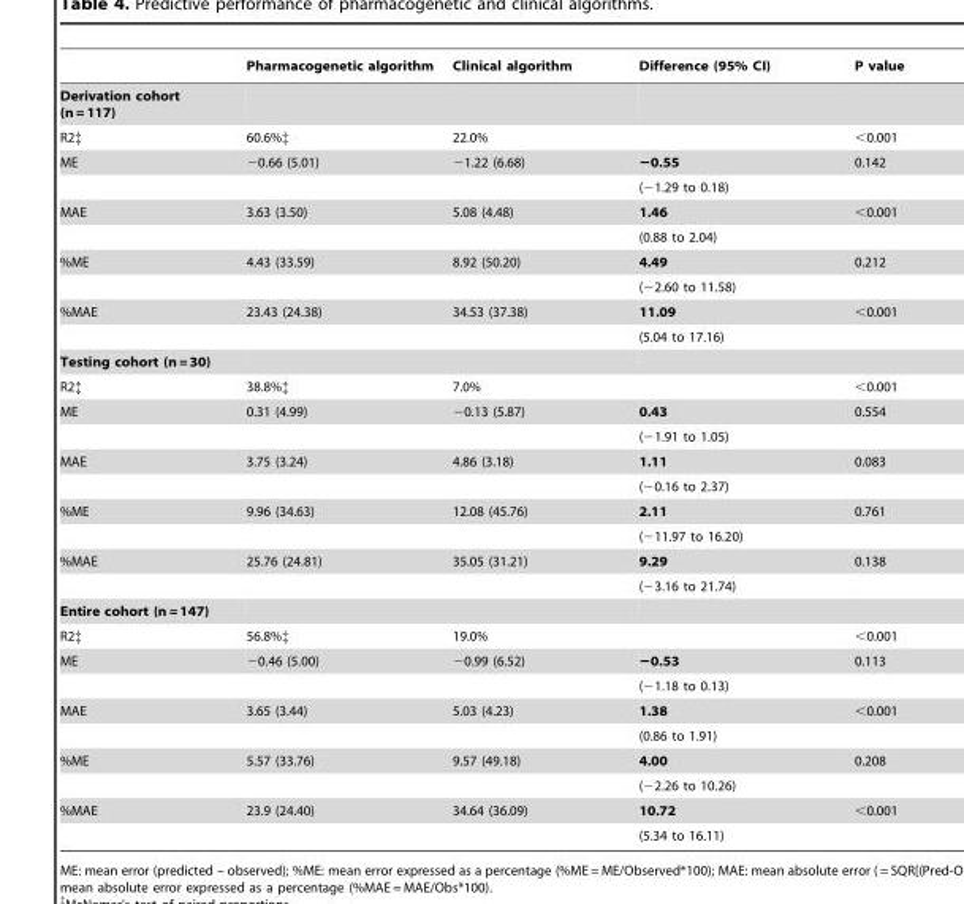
<table><thead><tr><td></td><td>Pharmacogenetic algorithm</td><td>Clinical algorithm</td><td>Difference (95% CI)</td><td>P value</td></tr></thead><tbody><tr><td colspan="5">Derivation cohort (n = 117)</td></tr><tr><td>R2‡</td><td>60.6%‡</td><td>22.0%</td><td></td><td>&lt;0.001</td></tr><tr><td rowspan="2">ME</td><td>−0.66 (5.01)</td><td>−1.22 (6.68)</td><td>−0.55</td><td>0.142</td></tr><tr><td></td><td></td><td>(−1.29 to 0.18)</td><td></td></tr><tr><td rowspan="2">MAE</td><td>3.63 (3.50)</td><td>5.08 (4.48)</td><td>1.46</td><td>&lt;0.001</td></tr><tr><td></td><td></td><td>(0.88 to 2.04)</td><td></td></tr><tr><td rowspan="2">%ME</td><td>4.43 (33.59)</td><td>8.92 (50.20)</td><td>4.49</td><td>0.212</td></tr><tr><td></td><td></td><td>(−2.60 to 11.58)</td><td></td></tr><tr><td rowspan="2">%MAE</td><td>23.43 (24.38)</td><td>34.53 (37.38)</td><td>11.09</td><td>&lt;0.001</td></tr><tr><td></td><td></td><td>(5.04 to 17.16)</td><td></td></tr><tr><td colspan="5">Testing cohort (n = 30)</td></tr><tr><td>R2‡</td><td>38.8%‡</td><td>7.0%</td><td></td><td>&lt;0.001</td></tr><tr><td rowspan="2">ME</td><td>0.31 (4.99)</td><td>−0.13 (5.87)</td><td>0.43</td><td>0.554</td></tr><tr><td></td><td></td><td>(−1.91 to 1.05)</td><td></td></tr><tr><td rowspan="2">MAE</td><td>3.75 (3.24)</td><td>4.86 (3.18)</td><td>1.11</td><td>0.083</td></tr><tr><td></td><td></td><td>(−0.16 to 2.37)</td><td></td></tr><tr><td rowspan="2">%ME</td><td>9.96 (34.63)</td><td>12.08 (45.76)</td><td>2.11</td><td>0.761</td></tr><tr><td></td><td></td><td>(−11.97 to 16.20)</td><td></td></tr><tr><td rowspan="2">%MAE</td><td>25.76 (24.81)</td><td>35.05 (31.21)</td><td>9.29</td><td>0.138</td></tr><tr><td></td><td></td><td>(−3.16 to 21.74)</td><td></td></tr><tr><td colspan="5">Entire cohort (n = 147)</td></tr><tr><td>R2‡</td><td>56.8%‡</td><td>19.0%</td><td></td><td>&lt;0.001</td></tr><tr><td rowspan="2">ME</td><td>−0.46 (5.00)</td><td>−0.99 (6.52)</td><td>−0.53</td><td>0.113</td></tr><tr><td></td><td></td><td>(−1.18 to 0.13)</td><td></td></tr><tr><td rowspan="2">MAE</td><td>3.65 (3.44)</td><td>5.03 (4.23)</td><td>1.38</td><td>&lt;0.001</td></tr><tr><td></td><td></td><td>(0.86 to 1.91)</td><td></td></tr><tr><td rowspan="2">%ME</td><td>5.57 (33.76)</td><td>9.57 (49.18)</td><td>4.00</td><td>0.208</td></tr><tr><td></td><td></td><td>(−2.26 to 10.26)</td><td></td></tr><tr><td rowspan="2">%MAE</td><td>23.9 (24.40)</td><td>34.64 (36.09)</td><td>10.72</td><td>&lt;0.001</td></tr><tr><td></td><td></td><td>(5.34 to 16.11)</td><td></td></tr></tbody></table>